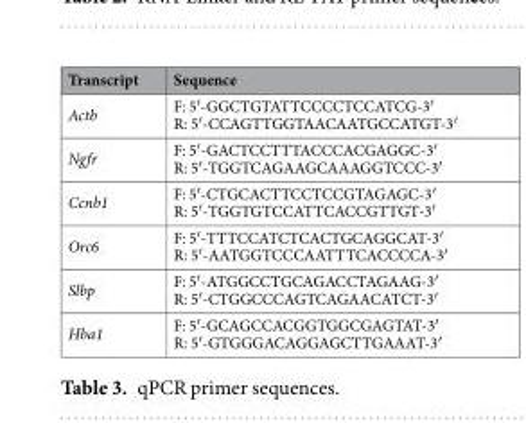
<table><thead><tr><td>Transcript</td><td>Sequence</td></tr></thead><tbody><tr><td>Actb</td><td>F: 5′-GGCTGTATTCCCCTCCATCG-3′ R: 5′-CCAGTTGGTAACAATGCCATGT-3′</td></tr><tr><td>Ngfr</td><td>F: 5′-GACTCCTTTACCCACGAGGC-3′ R: 5′-TGGTCAGAAGCAAAGGTCCC-3′</td></tr><tr><td>Ccnb1</td><td>F: 5′-CTGCACTTCCTCCGTAGAGC-3′ R: 5′-TGGTGTCCATTCACCGTTGT-3′</td></tr><tr><td>Orc6</td><td>F: 5′-TTTCCATCTCACTGCAGGCAT-3′ R: 5′-AATGGTCCCAATTTCACCCCA-3′</td></tr><tr><td>Slbp</td><td>F: 5′-ATGGCCTGCAGACCTAGAAG-3′ R: 5′-CTGGCCCAGTCAGAACATCT-3′</td></tr><tr><td>Hba1</td><td>F: 5′-GCAGCCACGGTGGCGAGTAT-3′ R: 5′-GTGGGACAGGAGCTTGAAAT-3′</td></tr></tbody></table>